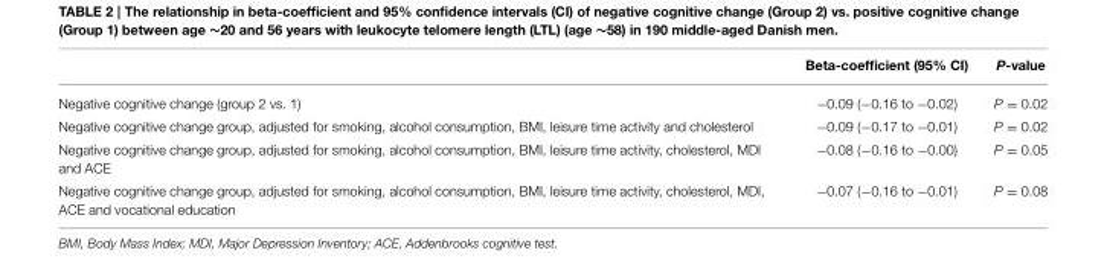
<table><thead><tr><td></td><td>Beta-coefficient (95% CI)</td><td>P-value</td></tr></thead><tbody><tr><td>Negative cognitive change (group 2 vs. 1)</td><td>−0.09 (−0.16 to −0.02)</td><td>P = 0.02</td></tr><tr><td>Negative cognitive change group, adjusted for smoking, alcohol consumption, BMI, leisure time activity and cholesterol</td><td>−0.09 (−0.17 to −0.01)</td><td>P = 0.02</td></tr><tr><td>Negative cognitive change group, adjusted for smoking, alcohol consumption, BMI, leisure time activity, cholesterol, MDI and ACE</td><td>−0.08 (−0.16 to −0.00)</td><td>P = 0.05</td></tr><tr><td>Negative cognitive change group, adjusted for smoking, alcohol consumption, BMI, leisure time activity, cholesterol, MDI, ACE and vocational education</td><td>−0.07 (−0.16 to −0.01)</td><td>P = 0.08</td></tr></tbody></table>